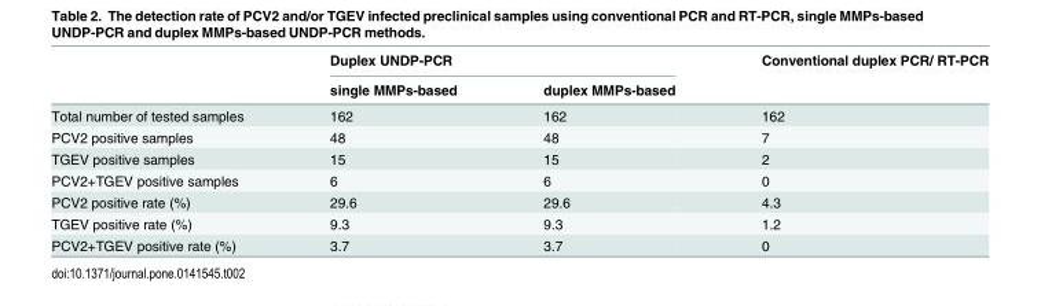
<table><thead><tr><td rowspan="2"></td><td colspan="2">Duplex UNDP-PCR</td><td rowspan="2">Conventional duplex PCR/ RT-PCR</td></tr><tr><td>single MMPs-based</td><td>duplex MMPs-based</td></tr></thead><tbody><tr><td>Total number of tested samples</td><td>162</td><td>162</td><td>162</td></tr><tr><td>PCV2 positive samples</td><td>48</td><td>48</td><td>7</td></tr><tr><td>TGEV positive samples</td><td>15</td><td>15</td><td>2</td></tr><tr><td>PCV2+TGEV positive samples</td><td>6</td><td>6</td><td>0</td></tr><tr><td>PCV2 positive rate (%)</td><td>29.6</td><td>29.6</td><td>4.3</td></tr><tr><td>TGEV positive rate (%)</td><td>9.3</td><td>9.3</td><td>1.2</td></tr><tr><td>PCV2+TGEV positive rate (%)</td><td>3.7</td><td>3.7</td><td>0</td></tr></tbody></table>